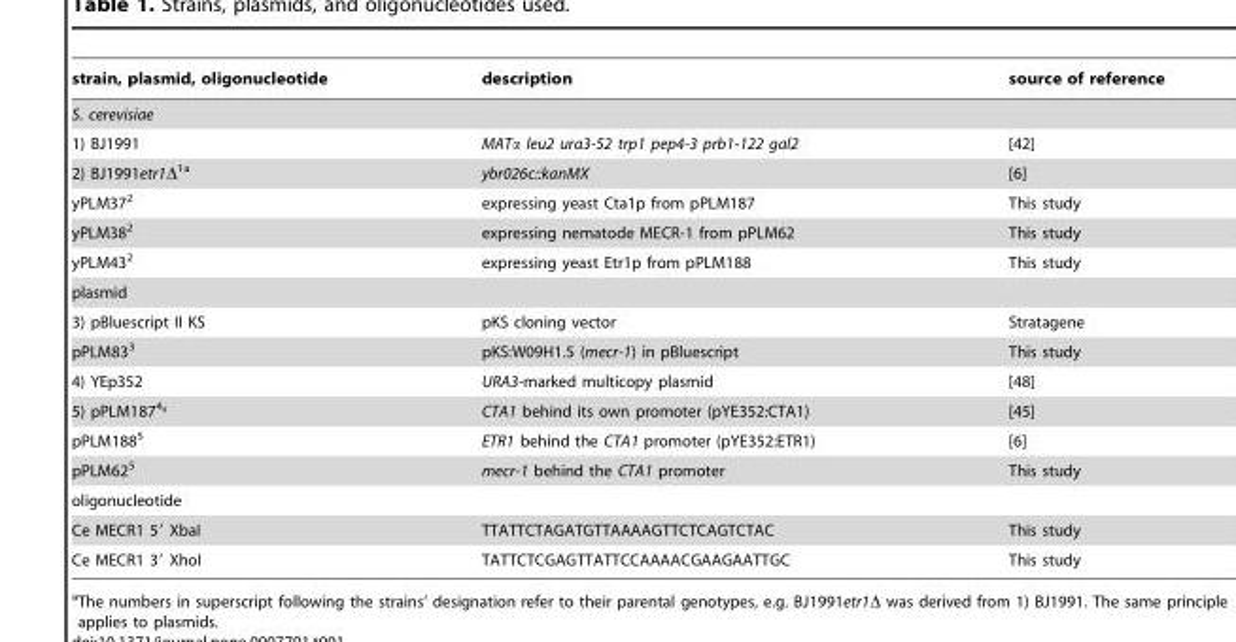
<table><thead><tr><td>strain, plasmid, oligonucleotide</td><td>description</td><td>source of reference</td></tr></thead><tbody><tr><td colspan="3">S. cerevisiae</td></tr><tr><td>1) BJ1991</td><td>MATα leu2 ura3-52 trp1 pep4-3 prb1-122 gal2</td><td>[42]</td></tr><tr><td>2) BJ1991etr1Δ<sup>1a</sup></td><td>ybr026c::kanMX</td><td>[6]</td></tr><tr><td>yPLM37<sup>2</sup></td><td>expressing yeast Cta1p from pPLM187</td><td>This study</td></tr><tr><td>yPLM38<sup>2</sup></td><td>expressing nematode MECR-1 from pPLM62</td><td>This study</td></tr><tr><td>yPLM43<sup>2</sup></td><td>expressing yeast Etr1p from pPLM188</td><td>This study</td></tr><tr><td colspan="3">plasmid</td></tr><tr><td>3) pBluescript II KS</td><td>pKS cloning vector</td><td>Stratagene</td></tr><tr><td>pPLM83<sup>3</sup></td><td>pKS:W09H1.5 (mecr-1) in pBluescript</td><td>This study</td></tr><tr><td>4) YEp352</td><td>URA3-marked multicopy plasmid</td><td>[48]</td></tr><tr><td>5) pPLM187<sup>44</sup></td><td>CTA1 behind its own promoter (pYE352:CTA1)</td><td>[45]</td></tr><tr><td>pPLM188<sup>5</sup></td><td>ETR1 behind the CTA1 promoter (pYE352:ETR1)</td><td>[6]</td></tr><tr><td>pPLM62<sup>5</sup></td><td>mecr-1 behind the CTA1 promoter</td><td>This study</td></tr><tr><td colspan="3">oligonucleotide</td></tr><tr><td>Ce MECR1 5′ XbaI</td><td>TTATTCTAGATGTTAAAAGTTCTCAGTCTAC</td><td>This study</td></tr><tr><td>Ce MECR1 3′ XhoI</td><td>TATTCTCGAGTTATTCCAAAACGAAGAATTGC</td><td>This study</td></tr></tbody></table>